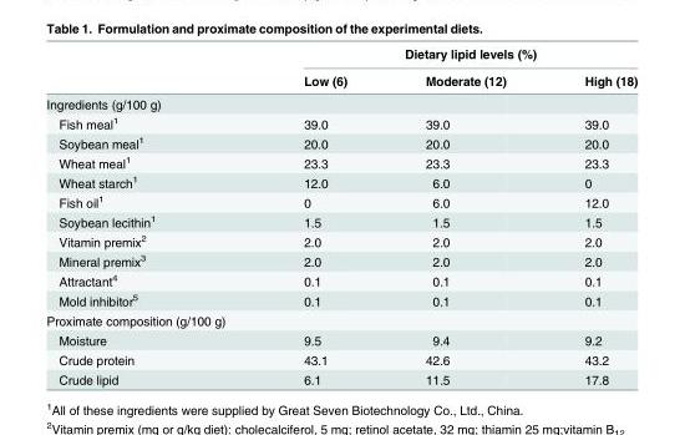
<table><thead><tr><td rowspan="2"></td><td colspan="3">Dietary lipid levels (%)</td></tr><tr><td>Low (6)</td><td>Moderate (12)</td><td>High (18)</td></tr></thead><tbody><tr><td colspan="4">Ingredients (g/100 g)</td></tr><tr><td>Fish meal<sup>1</sup></td><td>39.0</td><td>39.0</td><td>39.0</td></tr><tr><td>Soybean meal<sup>1</sup></td><td>20.0</td><td>20.0</td><td>20.0</td></tr><tr><td>Wheat meal<sup>1</sup></td><td>23.3</td><td>23.3</td><td>23.3</td></tr><tr><td>Wheat starch<sup>1</sup></td><td>12.0</td><td>6.0</td><td>0</td></tr><tr><td>Fish oil<sup>1</sup></td><td>0</td><td>6.0</td><td>12.0</td></tr><tr><td>Soybean lecithin<sup>1</sup></td><td>1.5</td><td>1.5</td><td>1.5</td></tr><tr><td>Vitamin premix<sup>2</sup></td><td>2.0</td><td>2.0</td><td>2.0</td></tr><tr><td>Mineral premix<sup>3</sup></td><td>2.0</td><td>2.0</td><td>2.0</td></tr><tr><td>Attractant<sup>4</sup></td><td>0.1</td><td>0.1</td><td>0.1</td></tr><tr><td>Mold inhibitor<sup>5</sup></td><td>0.1</td><td>0.1</td><td>0.1</td></tr><tr><td colspan="4">Proximate composition (g/100 g)</td></tr><tr><td>Moisture</td><td>9.5</td><td>9.4</td><td>9.2</td></tr><tr><td>Crude protein</td><td>43.1</td><td>42.6</td><td>43.2</td></tr><tr><td>Crude lipid</td><td>6.1</td><td>11.5</td><td>17.8</td></tr></tbody></table>